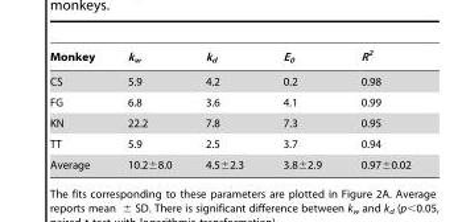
<table><thead><tr><td>Monkey</td><td>k<sub>w</sub></td><td>k<sub>d</sub></td><td>E<sub>0</sub></td><td>R<sup>2</sup></td></tr></thead><tbody><tr><td>CS</td><td>5.9</td><td>4.2</td><td>0.2</td><td>0.98</td></tr><tr><td>FG</td><td>6.8</td><td>3.6</td><td>4.1</td><td>0.99</td></tr><tr><td>KN</td><td>22.2</td><td>7.8</td><td>7.3</td><td>0.95</td></tr><tr><td>TT</td><td>5.9</td><td>2.5</td><td>3.7</td><td>0.94</td></tr><tr><td>Average</td><td>10.2±8.0</td><td>4.5±2.3</td><td>3.8±2.9</td><td>0.97±0.02</td></tr></tbody></table>